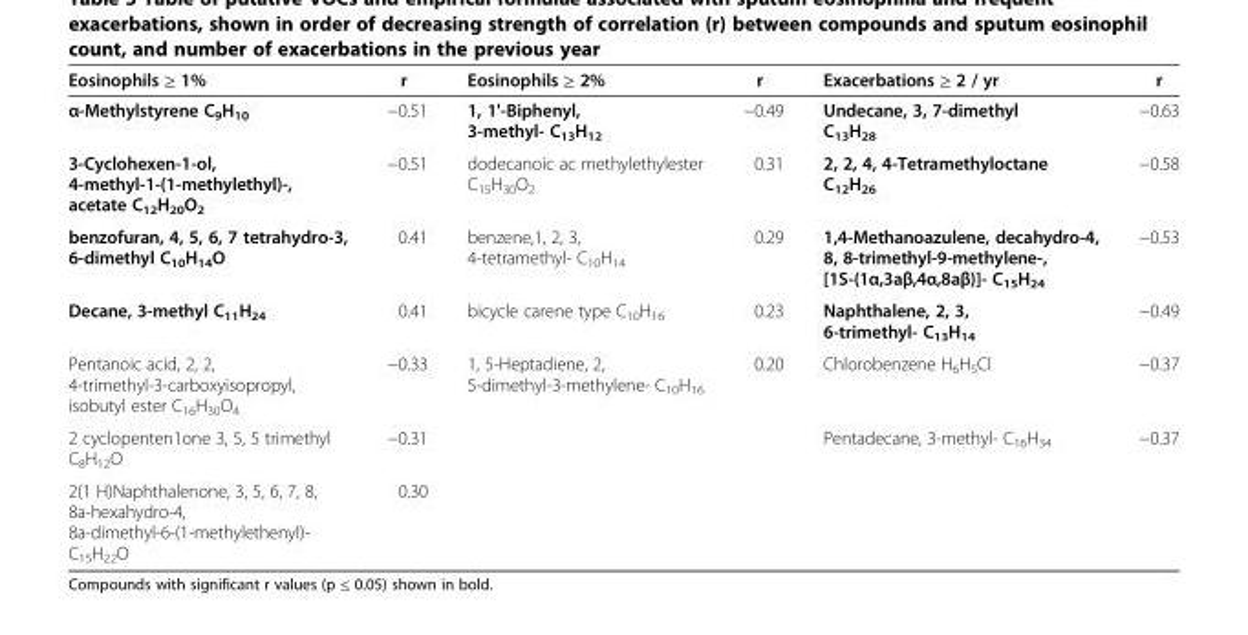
<table><thead><tr><td>Eosinophils ≥ 1%</td><td>r</td><td>Eosinophils ≥ 2%</td><td>r</td><td>Exacerbations ≥ 2 / yr</td><td>r</td></tr></thead><tbody><tr><td>α-Methylstyrene C<sub>9</sub>H<sub>10</sub></td><td>−0.51</td><td>1, 1&#x27;-Biphenyl, 3-methyl- C<sub>13</sub>H<sub>12</sub></td><td>−0.49</td><td>Undecane, 3, 7-dimethyl C<sub>13</sub>H<sub>28</sub></td><td>−0.63</td></tr><tr><td>3-Cyclohexen-1-ol, 4-methyl-1-(1-methylethyl)-, acetate C<sub>12</sub>H<sub>20</sub>O<sub>2</sub></td><td>−0.51</td><td>dodecanoic ac methylethylester C<sub>15</sub>H<sub>30</sub>O<sub>2</sub></td><td>0.31</td><td>2, 2, 4, 4-Tetramethyloctane C<sub>12</sub>H<sub>26</sub></td><td>−0.58</td></tr><tr><td>benzofuran, 4, 5, 6, 7 tetrahydro-3, 6-dimethyl C<sub>10</sub>H<sub>14</sub>O</td><td>0.41</td><td>benzene,1, 2, 3, 4-tetramethyl- C<sub>10</sub>H<sub>14</sub></td><td>0.29</td><td>1,4-Methanoazulene, decahydro-4, 8, 8-trimethyl-9-methylene-, [1S-(1α,3aβ,4α,8aβ)]- C<sub>15</sub>H<sub>24</sub></td><td>−0.53</td></tr><tr><td>Decane, 3-methyl C<sub>11</sub>H<sub>24</sub></td><td>0.41</td><td>bicycle carene type C<sub>10</sub>H<sub>16</sub></td><td>0.23</td><td>Naphthalene, 2, 3, 6-trimethyl- C<sub>13</sub>H<sub>14</sub></td><td>−0.49</td></tr><tr><td>Pentanoic acid, 2, 2, 4-trimethyl-3-carboxyisopropyl, isobutyl ester C<sub>16</sub>H<sub>30</sub>O<sub>4</sub></td><td>−0.33</td><td>1, 5-Heptadiene, 2, 5-dimethyl-3-methylene- C<sub>10</sub>H<sub>16</sub></td><td>0.20</td><td>Chlorobenzene H<sub>6</sub>H<sub>5</sub>Cl</td><td>−0.37</td></tr><tr><td>2 cyclopenten1one 3, 5, 5 trimethyl C<sub>8</sub>H<sub>12</sub>O</td><td>−0.31</td><td></td><td></td><td>Pentadecane, 3-methyl- C<sub>16</sub>H<sub>34</sub></td><td>−0.37</td></tr><tr><td>2(1 H)Naphthalenone, 3, 5, 6, 7, 8, 8a-hexahydro-4, 8a-dimethyl-6-(1-methylethenyl)- C<sub>15</sub>H<sub>22</sub>O</td><td>0.30</td><td></td><td></td><td></td><td></td></tr></tbody></table>